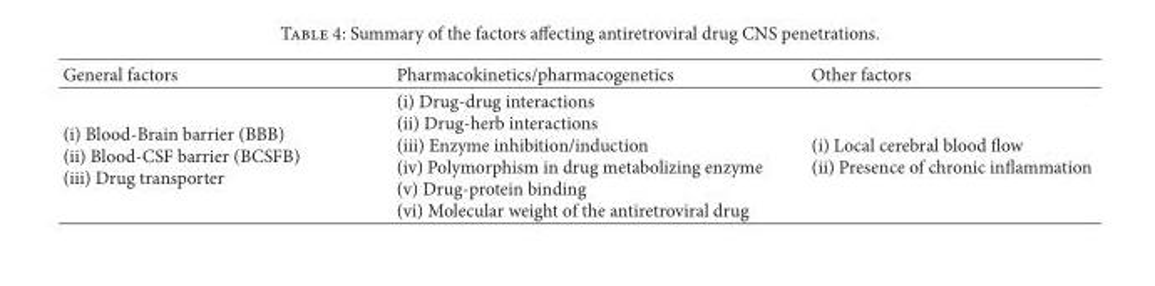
<table><thead><tr><td>General factors</td><td>Pharmacokinetics/pharmacogenetics</td><td>Other factors</td></tr></thead><tbody><tr><td>(i) Blood-Brain barrier (BBB) (ii) Blood-CSF barrier (BCSFB) (iii) Drug transporter</td><td>(i) Drug-drug interactions (ii) Drug-herb interactions (iii) Enzyme inhibition/induction (iv) Polymorphism in drug metabolizing enzyme (v) Drug-protein binding (vi) Molecular weight of the antiretroviral drug</td><td>(i) Local cerebral blood flow (ii) Presence of chronic inflammation</td></tr></tbody></table>